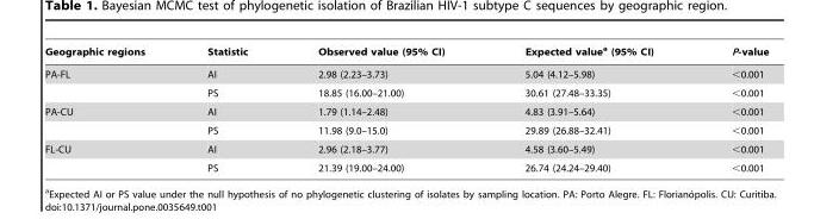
<table><thead><tr><td>Geographic regions</td><td>Statistic</td><td>Observed value (95% CI)</td><td>Expected value<sup>a</sup> (95% CI)</td><td>P-value</td></tr></thead><tbody><tr><td rowspan="2">PA-FL</td><td>AI</td><td>2.98 (2.23–3.73)</td><td>5.04 (4.12–5.98)</td><td>&lt;0.001</td></tr><tr><td>PS</td><td>18.85 (16.00–21.00)</td><td>30.61 (27.48–33.35)</td><td>&lt;0.001</td></tr><tr><td rowspan="2">PA-CU</td><td>AI</td><td>1.79 (1.14–2.48)</td><td>4.83 (3.91–5.64)</td><td>&lt;0.001</td></tr><tr><td>PS</td><td>11.98 (9.0–15.0)</td><td>29.89 (26.88–32.41)</td><td>&lt;0.001</td></tr><tr><td rowspan="2">FL-CU</td><td>AI</td><td>2.96 (2.18–3.77)</td><td>4.58 (3.60–5.49)</td><td>&lt;0.001</td></tr><tr><td>PS</td><td>21.39 (19.00–24.00)</td><td>26.74 (24.24–29.40)</td><td>&lt;0.001</td></tr></tbody></table>